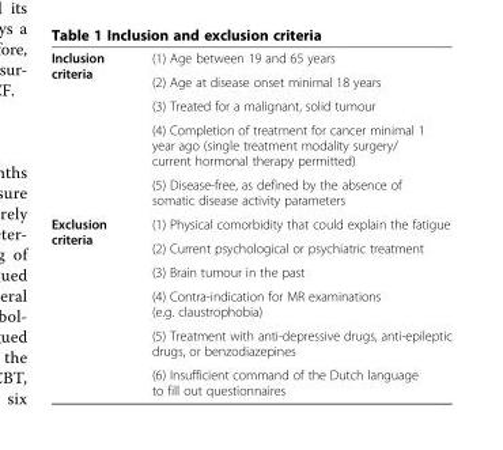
<table><tbody><tr><td rowspan="5">Inclusion criteria</td><td>(1) Age between 19 and 65 years</td></tr><tr><td>(2) Age at disease onset minimal 18 years</td></tr><tr><td>(3) Treated for a malignant, solid tumour</td></tr><tr><td>(4) Completion of treatment for cancer minimal 1 year ago (single treatment modality surgery/ current hormonal therapy permitted)</td></tr><tr><td>(5) Disease-free, as defined by the absence of somatic disease activity parameters</td></tr><tr><td rowspan="6">Exclusion criteria</td><td>(1) Physical comorbidity that could explain the fatigue</td></tr><tr><td>(2) Current psychological or psychiatric treatment</td></tr><tr><td>(3) Brain tumour in the past</td></tr><tr><td>(4) Contra-indication for MR examinations (e.g. claustrophobia)</td></tr><tr><td>(5) Treatment with anti-depressive drugs, anti-epileptic drugs, or benzodiazepines</td></tr><tr><td>(6) Insufficient command of the Dutch language to fill out questionnaires</td></tr></tbody></table>